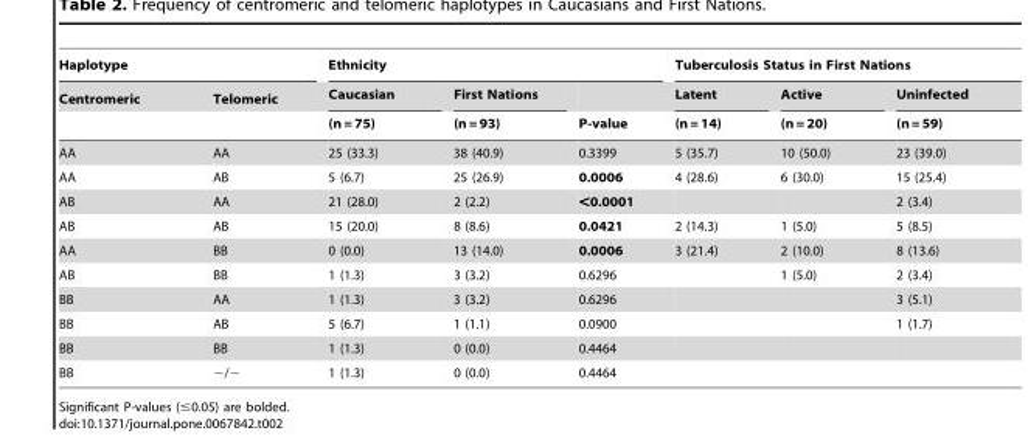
<table><thead><tr><td colspan="2">Haplotype</td><td colspan="3">Ethnicity</td><td colspan="3">Tuberculosis Status in First Nations</td></tr><tr><td rowspan="2">Centromeric</td><td rowspan="2">Telomeric</td><td rowspan="2">Caucasian (n = 75)</td><td rowspan="2">First Nations (n = 93)</td><td rowspan="2">P-value</td><td rowspan="2">Latent (n = 14)</td><td rowspan="2">Active (n = 20)</td><td rowspan="2">Uninfected (n = 59)</td></tr><tr></tr></thead><tbody><tr><td>AA</td><td>AA</td><td>25 (33.3)</td><td>38 (40.9)</td><td>0.3399</td><td>5 (35.7)</td><td>10 (50.0)</td><td>23 (39.0)</td></tr><tr><td>AA</td><td>AB</td><td>5 (6.7)</td><td>25 (26.9)</td><td>0.0006</td><td>4 (28.6)</td><td>6 (30.0)</td><td>15 (25.4)</td></tr><tr><td>AB</td><td>AA</td><td>21 (28.0)</td><td>2 (2.2)</td><td>&lt;0.0001</td><td></td><td></td><td>2 (3.4)</td></tr><tr><td>AB</td><td>AB</td><td>15 (20.0)</td><td>8 (8.6)</td><td>0.0421</td><td>2 (14.3)</td><td>1 (5.0)</td><td>5 (8.5)</td></tr><tr><td>AA</td><td>BB</td><td>0 (0.0)</td><td>13 (14.0)</td><td>0.0006</td><td>3 (21.4)</td><td>2 (10.0)</td><td>8 (13.6)</td></tr><tr><td>AB</td><td>BB</td><td>1 (1.3)</td><td>3 (3.2)</td><td>0.6296</td><td></td><td>1 (5.0)</td><td>2 (3.4)</td></tr><tr><td>BB</td><td>AA</td><td>1 (1.3)</td><td>3 (3.2)</td><td>0.6296</td><td></td><td></td><td>3 (5.1)</td></tr><tr><td>BB</td><td>AB</td><td>5 (6.7)</td><td>1 (1.1)</td><td>0.0900</td><td></td><td></td><td>1 (1.7)</td></tr><tr><td>BB</td><td>BB</td><td>1 (1.3)</td><td>0 (0.0)</td><td>0.4464</td><td></td><td></td><td></td></tr><tr><td>BB</td><td>−/−</td><td>1 (1.3)</td><td>0 (0.0)</td><td>0.4464</td><td></td><td></td><td></td></tr></tbody></table>